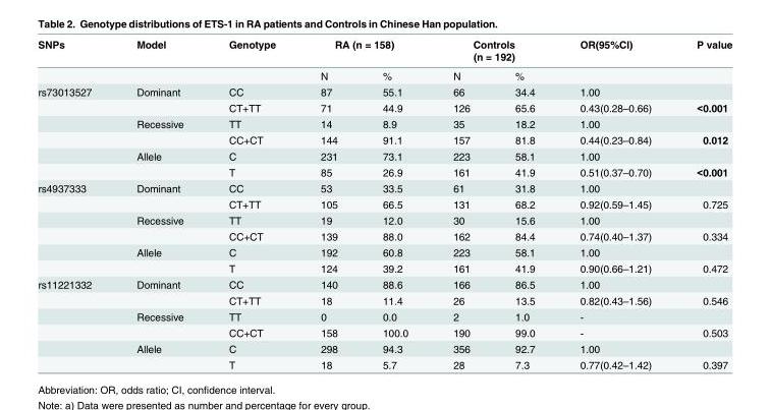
<table><thead><tr><td rowspan="2">SNPs</td><td rowspan="2">Model</td><td rowspan="2">Genotype</td><td colspan="2">RA (n = 158)</td><td colspan="2">Controls (n = 192)</td><td rowspan="2">OR(95%CI)</td><td rowspan="2">P value</td></tr><tr><td>N</td><td>%</td><td>N</td><td>%</td></tr></thead><tbody><tr><td rowspan="6">rs73013527</td><td>Dominant</td><td>CC</td><td>87</td><td>55.1</td><td>66</td><td>34.4</td><td>1.00</td><td></td></tr><tr><td></td><td>CT+TT</td><td>71</td><td>44.9</td><td>126</td><td>65.6</td><td>0.43(0.28–0.66)</td><td>&lt;0.001</td></tr><tr><td>Recessive</td><td>TT</td><td>14</td><td>8.9</td><td>35</td><td>18.2</td><td>1.00</td><td></td></tr><tr><td></td><td>CC+CT</td><td>144</td><td>91.1</td><td>157</td><td>81.8</td><td>0.44(0.23–0.84)</td><td>0.012</td></tr><tr><td>Allele</td><td>C</td><td>231</td><td>73.1</td><td>223</td><td>58.1</td><td>1.00</td><td></td></tr><tr><td></td><td>T</td><td>85</td><td>26.9</td><td>161</td><td>41.9</td><td>0.51(0.37–0.70)</td><td>&lt;0.001</td></tr><tr><td rowspan="6">rs4937333</td><td>Dominant</td><td>CC</td><td>53</td><td>33.5</td><td>61</td><td>31.8</td><td>1.00</td><td></td></tr><tr><td></td><td>CT+TT</td><td>105</td><td>66.5</td><td>131</td><td>68.2</td><td>0.92(0.59–1.45)</td><td>0.725</td></tr><tr><td>Recessive</td><td>TT</td><td>19</td><td>12.0</td><td>30</td><td>15.6</td><td>1.00</td><td></td></tr><tr><td></td><td>CC+CT</td><td>139</td><td>88.0</td><td>162</td><td>84.4</td><td>0.74(0.40–1.37)</td><td>0.334</td></tr><tr><td>Allele</td><td>C</td><td>192</td><td>60.8</td><td>223</td><td>58.1</td><td>1.00</td><td></td></tr><tr><td></td><td>T</td><td>124</td><td>39.2</td><td>161</td><td>41.9</td><td>0.90(0.66–1.21)</td><td>0.472</td></tr><tr><td rowspan="6">rs11221332</td><td>Dominant</td><td>CC</td><td>140</td><td>88.6</td><td>166</td><td>86.5</td><td>1.00</td><td></td></tr><tr><td></td><td>CT+TT</td><td>18</td><td>11.4</td><td>26</td><td>13.5</td><td>0.82(0.43–1.56)</td><td>0.546</td></tr><tr><td>Recessive</td><td>TT</td><td>0</td><td>0.0</td><td>2</td><td>1.0</td><td>-</td><td></td></tr><tr><td></td><td>CC+CT</td><td>158</td><td>100.0</td><td>190</td><td>99.0</td><td>-</td><td>0.503</td></tr><tr><td>Allele</td><td>C</td><td>298</td><td>94.3</td><td>356</td><td>92.7</td><td>1.00</td><td></td></tr><tr><td></td><td>T</td><td>18</td><td>5.7</td><td>28</td><td>7.3</td><td>0.77(0.42–1.42)</td><td>0.397</td></tr></tbody></table>